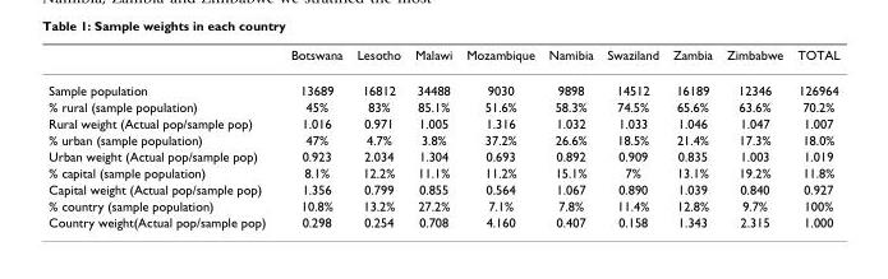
<table><thead><tr><td></td><td>Botswana</td><td>Lesotho</td><td>Malawi</td><td>Mozambique</td><td>Namibia</td><td>Swaziland</td><td>Zambia</td><td>Zimbabwe</td><td>TOTAL</td></tr></thead><tbody><tr><td>Sample population</td><td>13689</td><td>16812</td><td>34488</td><td>9030</td><td>9898</td><td>14512</td><td>16189</td><td>12346</td><td>126964</td></tr><tr><td>% rural (sample population)</td><td>45%</td><td>83%</td><td>85.1%</td><td>51.6%</td><td>58.3%</td><td>74.5%</td><td>65.6%</td><td>63.6%</td><td>70.2%</td></tr><tr><td>Rural weight (Actual pop/sample pop)</td><td>1.016</td><td>0.971</td><td>1.005</td><td>1.316</td><td>1.032</td><td>1.033</td><td>1.046</td><td>1.047</td><td>1.007</td></tr><tr><td>% urban (sample population)</td><td>47%</td><td>4.7%</td><td>3.8%</td><td>37.2%</td><td>26.6%</td><td>18.5%</td><td>21.4%</td><td>17.3%</td><td>18.0%</td></tr><tr><td>Urban weight (Actual pop/sample pop)</td><td>0.923</td><td>2.034</td><td>1.304</td><td>0.693</td><td>0.892</td><td>0.909</td><td>0.835</td><td>1.003</td><td>1.019</td></tr><tr><td>% capital (sample population)</td><td>8.1%</td><td>12.2%</td><td>11.1%</td><td>11.2%</td><td>15.1%</td><td>7%</td><td>13.1%</td><td>19.2%</td><td>11.8%</td></tr><tr><td>Capital weight (Actual pop/sample pop)</td><td>1.356</td><td>0.799</td><td>0.855</td><td>0.564</td><td>1.067</td><td>0.890</td><td>1.039</td><td>0.840</td><td>0.927</td></tr><tr><td>% country (sample population)</td><td>10.8%</td><td>13.2%</td><td>27.2%</td><td>7.1%</td><td>7.8%</td><td>11.4%</td><td>12.8%</td><td>9.7%</td><td>100%</td></tr><tr><td>Country weight(Actual pop/sample pop)</td><td>0.298</td><td>0.254</td><td>0.708</td><td>4.160</td><td>0.407</td><td>0.158</td><td>1.343</td><td>2.315</td><td>1.000</td></tr></tbody></table>